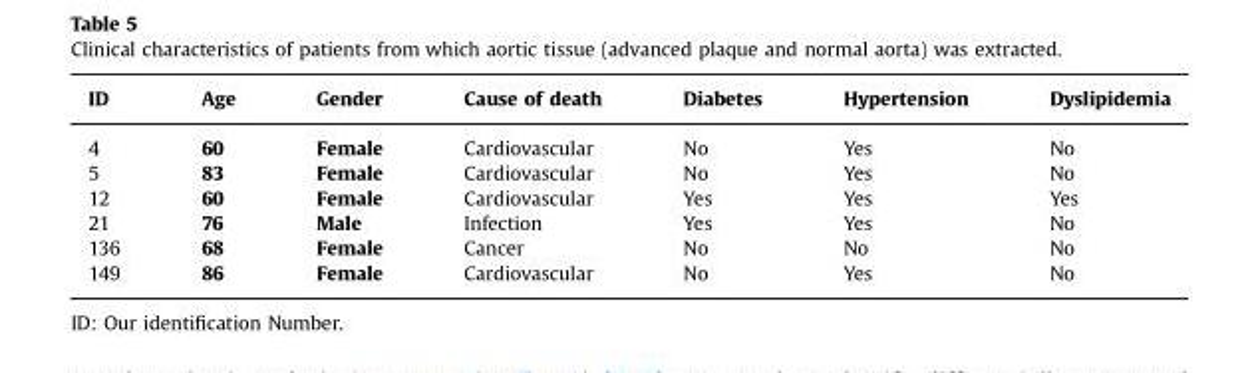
<table><thead><tr><td>ID</td><td>Age</td><td>Gender</td><td>Cause of death</td><td>Diabetes</td><td>Hypertension</td><td>Dyslipidemia</td></tr></thead><tbody><tr><td>4</td><td>60</td><td>Female</td><td>Cardiovascular</td><td>No</td><td>Yes</td><td>No</td></tr><tr><td>5</td><td>83</td><td>Female</td><td>Cardiovascular</td><td>No</td><td>Yes</td><td>No</td></tr><tr><td>12</td><td>60</td><td>Female</td><td>Cardiovascular</td><td>Yes</td><td>Yes</td><td>Yes</td></tr><tr><td>21</td><td>76</td><td>Male</td><td>Infection</td><td>Yes</td><td>Yes</td><td>No</td></tr><tr><td>136</td><td>68</td><td>Female</td><td>Cancer</td><td>No</td><td>No</td><td>No</td></tr><tr><td>149</td><td>86</td><td>Female</td><td>Cardiovascular</td><td>No</td><td>Yes</td><td>No</td></tr></tbody></table>